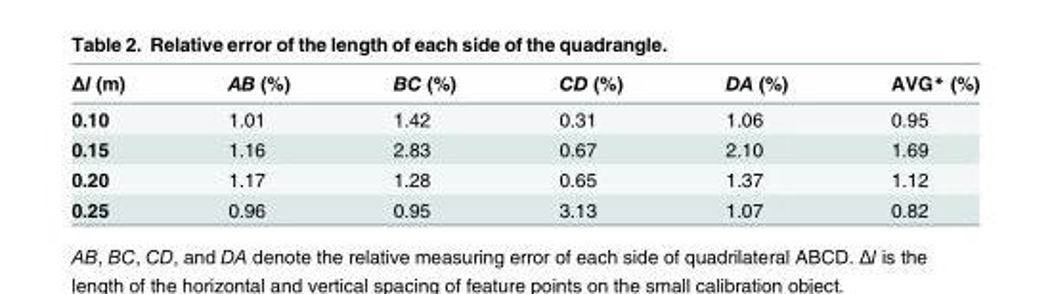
<table><thead><tr><td>Δl (m)</td><td>AB (%)</td><td>BC (%)</td><td>CD (%)</td><td>DA (%)</td><td>AVG* (%)</td></tr></thead><tbody><tr><td>0.10</td><td>1.01</td><td>1.42</td><td>0.31</td><td>1.06</td><td>0.95</td></tr><tr><td>0.15</td><td>1.16</td><td>2.83</td><td>0.67</td><td>2.10</td><td>1.69</td></tr><tr><td>0.20</td><td>1.17</td><td>1.28</td><td>0.65</td><td>1.37</td><td>1.12</td></tr><tr><td>0.25</td><td>0.96</td><td>0.95</td><td>3.13</td><td>1.07</td><td>0.82</td></tr></tbody></table>